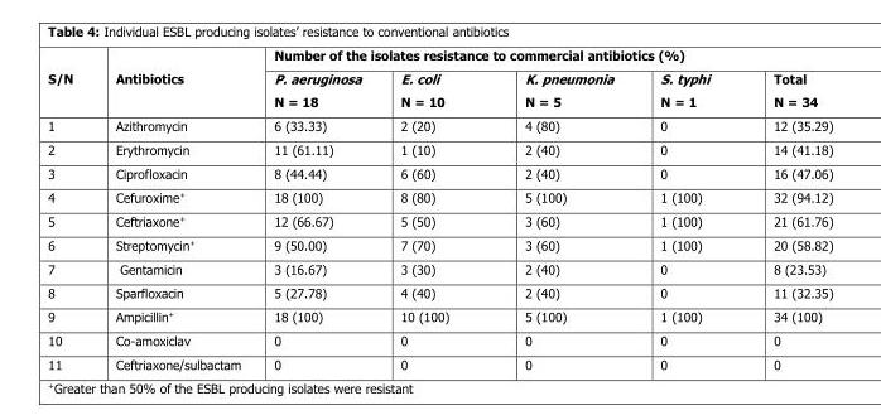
<table><thead><tr><td rowspan="2">S/N</td><td rowspan="2">Antibiotics</td><td colspan="5">Number of the isolates resistance to commercial antibiotics (%)</td></tr><tr><td>P. aeruginosa N = 18</td><td>E. coli N = 10</td><td>K. pneumonia N = 5</td><td>S. typhi N = 1</td><td>Total N = 34</td></tr></thead><tbody><tr><td>1</td><td>Azithromycin</td><td>6 (33.33)</td><td>2 (20)</td><td>4 (80)</td><td>0</td><td>12 (35.29)</td></tr><tr><td>2</td><td>Erythromycin</td><td>11 (61.11)</td><td>1 (10)</td><td>2 (40)</td><td>0</td><td>14 (41.18)</td></tr><tr><td>3</td><td>Ciprofloxacin</td><td>8 (44.44)</td><td>6 (60)</td><td>2 (40)</td><td>0</td><td>16 (47.06)</td></tr><tr><td>4</td><td>Cefuroxime<sup>+</sup></td><td>18 (100)</td><td>8 (80)</td><td>5 (100)</td><td>1 (100)</td><td>32 (94.12)</td></tr><tr><td>5</td><td>Ceftriaxone<sup>+</sup></td><td>12 (66.67)</td><td>5 (50)</td><td>3 (60)</td><td>1 (100)</td><td>21 (61.76)</td></tr><tr><td>6</td><td>Streptomycin<sup>+</sup></td><td>9 (50.00)</td><td>7 (70)</td><td>3 (60)</td><td>1 (100)</td><td>20 (58.82)</td></tr><tr><td>7</td><td>Gentamicin</td><td>3 (16.67)</td><td>3 (30)</td><td>2 (40)</td><td>0</td><td>8 (23.53)</td></tr><tr><td>8</td><td>Sparfloxacin</td><td>5 (27.78)</td><td>4 (40)</td><td>2 (40)</td><td>0</td><td>11 (32.35)</td></tr><tr><td>9</td><td>Ampicillin<sup>+</sup></td><td>18 (100)</td><td>10 (100)</td><td>5 (100)</td><td>1 (100)</td><td>34 (100)</td></tr><tr><td>10</td><td>Co-amoxiclav</td><td>0</td><td>0</td><td>0</td><td>0</td><td>0</td></tr><tr><td>11</td><td>Ceftriaxone/sulbactam</td><td>0</td><td>0</td><td>0</td><td>0</td><td>0</td></tr></tbody></table>